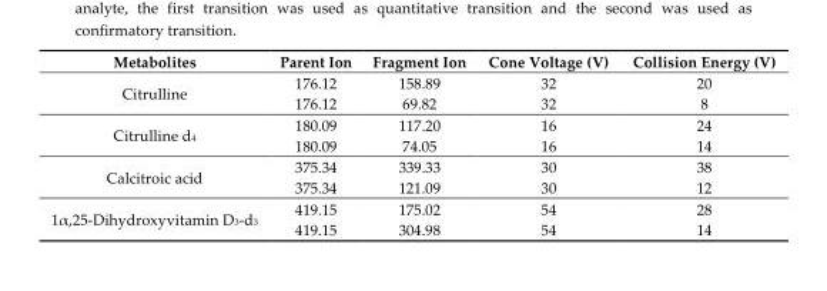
<table><thead><tr><td>Metabolites</td><td>Parent Ion</td><td>Fragment Ion</td><td>Cone Voltage (V)</td><td>Collision Energy (V)</td></tr></thead><tbody><tr><td rowspan="2">Citrulline</td><td>176.12</td><td>158.89</td><td>32</td><td>20</td></tr><tr><td>176.12</td><td>69.82</td><td>32</td><td>8</td></tr><tr><td rowspan="2">Citrulline d<sub>4</sub></td><td>180.09</td><td>117.20</td><td>16</td><td>24</td></tr><tr><td>180.09</td><td>74.05</td><td>16</td><td>14</td></tr><tr><td rowspan="2">Calcitroic acid</td><td>375.34</td><td>339.33</td><td>30</td><td>38</td></tr><tr><td>375.34</td><td>121.09</td><td>30</td><td>12</td></tr><tr><td rowspan="2">1α,25-Dihydroxyvitamin D<sub>3</sub>-d<sub>3</sub></td><td>419.15</td><td>175.02</td><td>54</td><td>28</td></tr><tr><td>419.15</td><td>304.98</td><td>54</td><td>14</td></tr></tbody></table>